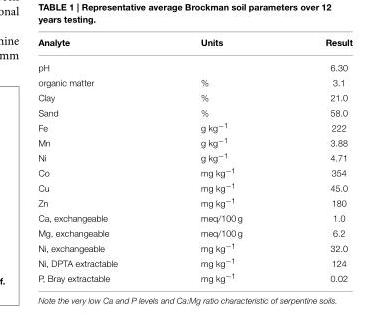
<table><thead><tr><td>Analyte</td><td>Units</td><td>Result</td></tr></thead><tbody><tr><td>pH</td><td></td><td>6.30</td></tr><tr><td>organic matter</td><td>%</td><td>3.1</td></tr><tr><td>Clay</td><td>%</td><td>21.0</td></tr><tr><td>Sand</td><td>%</td><td>58.0</td></tr><tr><td>Fe</td><td>g kg<sup>−1</sup></td><td>222</td></tr><tr><td>Mn</td><td>g kg<sup>−1</sup></td><td>3.88</td></tr><tr><td>Ni</td><td>g kg<sup>−1</sup></td><td>4.71</td></tr><tr><td>Co</td><td>mg kg<sup>−1</sup></td><td>354</td></tr><tr><td>Cu</td><td>mg kg<sup>−1</sup></td><td>45.0</td></tr><tr><td>Zn</td><td>mg kg<sup>−1</sup></td><td>180</td></tr><tr><td>Ca, exchangeable</td><td>meq/100 g</td><td>1.0</td></tr><tr><td>Mg, exchangeable</td><td>meq/100 g</td><td>6.2</td></tr><tr><td>Ni, exchangeable</td><td>mg kg<sup>−1</sup></td><td>32.0</td></tr><tr><td>Ni, DPTA extractable</td><td>mg kg<sup>−1</sup></td><td>124</td></tr><tr><td>P, Bray extractable</td><td>mg kg<sup>−1</sup></td><td>0.02</td></tr></tbody></table>